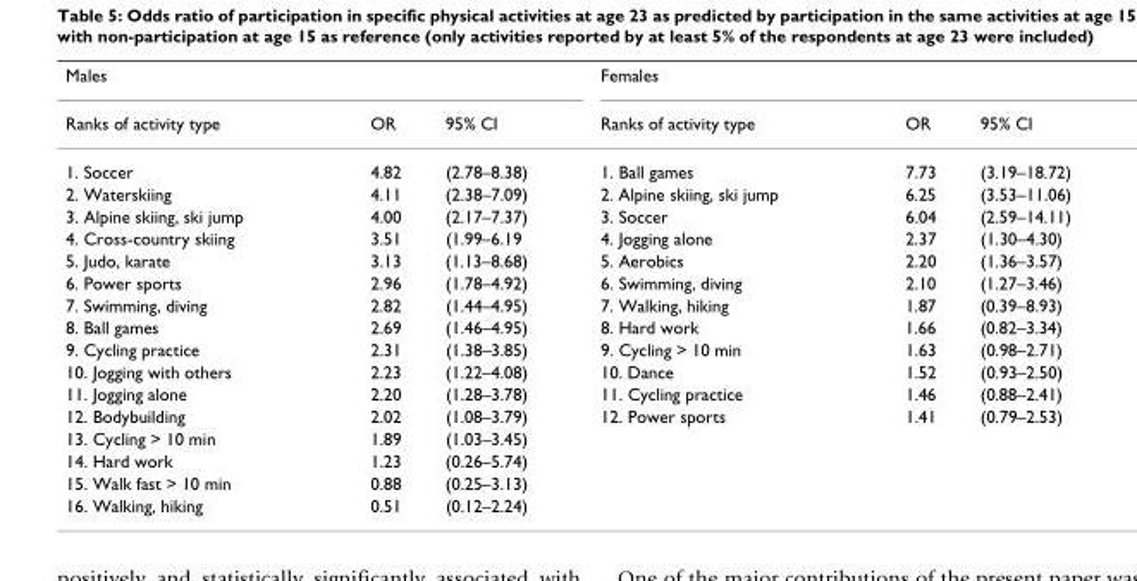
<table><thead><tr><td rowspan="2">Males Ranks of activity type</td><td rowspan="2">OR</td><td rowspan="2">95% CI</td><td rowspan="2">Females Ranks of activity type</td><td rowspan="2">OR</td><td rowspan="2">95% CI</td></tr><tr></tr></thead><tbody><tr><td>1. Soccer</td><td>4.82</td><td>(2.78–8.38)</td><td>1. Ball games</td><td>7.73</td><td>(3.19–18.72)</td></tr><tr><td>2. Waterskiing</td><td>4.11</td><td>(2.38–7.09)</td><td>2. Alpine skiing, ski jump</td><td>6.25</td><td>(3.53–11.06)</td></tr><tr><td>3. Alpine skiing, ski jump</td><td>4.00</td><td>(2.17–7.37)</td><td>3. Soccer</td><td>6.04</td><td>(2.59–14.11)</td></tr><tr><td>4. Cross-country skiing</td><td>3.51</td><td>(1.99–6.19</td><td>4. Jogging alone</td><td>2.37</td><td>(1.30–4.30)</td></tr><tr><td>5. Judo, karate</td><td>3.13</td><td>(1.13–8.68)</td><td>5. Aerobics</td><td>2.20</td><td>(1.36–3.57)</td></tr><tr><td>6. Power sports</td><td>2.96</td><td>(1.78–4.92)</td><td>6. Swimming, diving</td><td>2.10</td><td>(1.27–3.46)</td></tr><tr><td>7. Swimming, diving</td><td>2.82</td><td>(1.44–4.95)</td><td>7. Walking, hiking</td><td>1.87</td><td>(0.39–8.93)</td></tr><tr><td>8. Ball games</td><td>2.69</td><td>(1.46–4.95)</td><td>8. Hard work</td><td>1.66</td><td>(0.82–3.34)</td></tr><tr><td>9. Cycling practice</td><td>2.31</td><td>(1.38–3.85)</td><td>9. Cycling &gt; 10 min</td><td>1.63</td><td>(0.98–2.71)</td></tr><tr><td>10. Jogging with others</td><td>2.23</td><td>(1.22–4.08)</td><td>10. Dance</td><td>1.52</td><td>(0.93–2.50)</td></tr><tr><td>11. Jogging alone</td><td>2.20</td><td>(1.28–3.78)</td><td>11. Cycling practice</td><td>1.46</td><td>(0.88–2.41)</td></tr><tr><td>12. Bodybuilding</td><td>2.02</td><td>(1.08–3.79)</td><td>12. Power sports</td><td>1.41</td><td>(0.79–2.53)</td></tr><tr><td>13. Cycling &gt; 10 min</td><td>1.89</td><td>(1.03–3.45)</td><td></td><td></td><td></td></tr><tr><td>14. Hard work</td><td>1.23</td><td>(0.26–5.74)</td><td></td><td></td><td></td></tr><tr><td>15. Walk fast &gt; 10 min</td><td>0.88</td><td>(0.25–3.13)</td><td></td><td></td><td></td></tr><tr><td>16. Walking, hiking</td><td>0.51</td><td>(0.12–2.24)</td><td></td><td></td><td></td></tr></tbody></table>